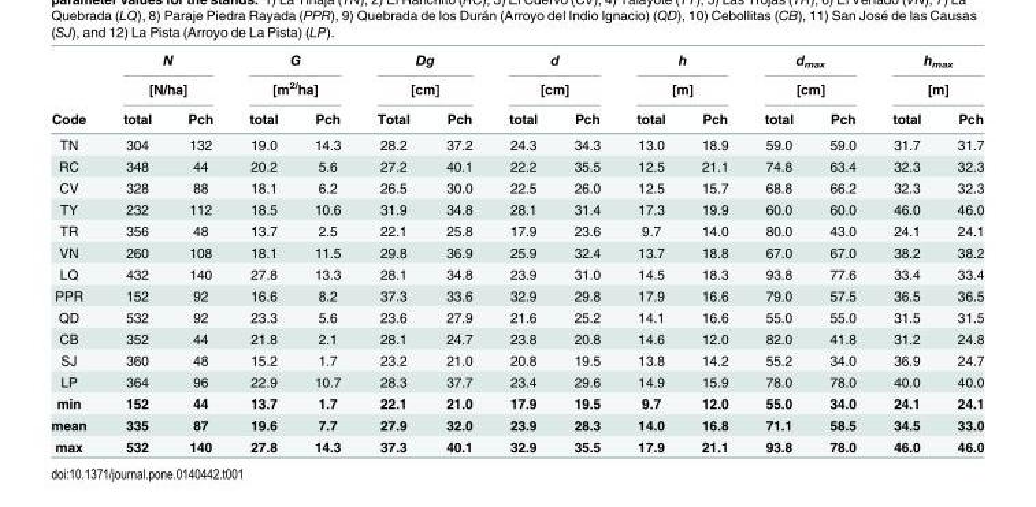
<table><thead><tr><td rowspan="3">Code</td><td rowspan="2" colspan="2">N [N/ha]</td><td rowspan="2" colspan="2">G [m<sup>2/</sup>ha]</td><td rowspan="2" colspan="2">Dg [cm]</td><td rowspan="2" colspan="2">d [cm]</td><td rowspan="2" colspan="2">h [m]</td><td rowspan="2" colspan="2">d<sub>max</sub> [cm]</td><td rowspan="2" colspan="2">h<sub>max</sub> [m]</td></tr><tr></tr><tr><td>total</td><td>Pch</td><td>total</td><td>Pch</td><td>Total</td><td>Pch</td><td>total</td><td>Pch</td><td>total</td><td>Pch</td><td>total</td><td>Pch</td><td>total</td><td>Pch</td></tr></thead><tbody><tr><td>TN</td><td>304</td><td>132</td><td>19.0</td><td>14.3</td><td>28.2</td><td>37.2</td><td>24.3</td><td>34.3</td><td>13.0</td><td>18.9</td><td>59.0</td><td>59.0</td><td>31.7</td><td>31.7</td></tr><tr><td>RC</td><td>348</td><td>44</td><td>20.2</td><td>5.6</td><td>27.2</td><td>40.1</td><td>22.2</td><td>35.5</td><td>12.5</td><td>21.1</td><td>74.8</td><td>63.4</td><td>32.3</td><td>32.3</td></tr><tr><td>CV</td><td>328</td><td>88</td><td>18.1</td><td>6.2</td><td>26.5</td><td>30.0</td><td>22.5</td><td>26.0</td><td>12.5</td><td>15.7</td><td>68.8</td><td>66.2</td><td>32.3</td><td>32.3</td></tr><tr><td>TY</td><td>232</td><td>112</td><td>18.5</td><td>10.6</td><td>31.9</td><td>34.8</td><td>28.1</td><td>31.4</td><td>17.3</td><td>19.9</td><td>60.0</td><td>60.0</td><td>46.0</td><td>46.0</td></tr><tr><td>TR</td><td>356</td><td>48</td><td>13.7</td><td>2.5</td><td>22.1</td><td>25.8</td><td>17.9</td><td>23.6</td><td>9.7</td><td>14.0</td><td>80.0</td><td>43.0</td><td>24.1</td><td>24.1</td></tr><tr><td>VN</td><td>260</td><td>108</td><td>18.1</td><td>11.5</td><td>29.8</td><td>36.9</td><td>25.9</td><td>32.4</td><td>13.7</td><td>18.8</td><td>67.0</td><td>67.0</td><td>38.2</td><td>38.2</td></tr><tr><td>LQ</td><td>432</td><td>140</td><td>27.8</td><td>13.3</td><td>28.1</td><td>34.8</td><td>23.9</td><td>31.0</td><td>14.5</td><td>18.3</td><td>93.8</td><td>77.6</td><td>33.4</td><td>33.4</td></tr><tr><td>PPR</td><td>152</td><td>92</td><td>16.6</td><td>8.2</td><td>37.3</td><td>33.6</td><td>32.9</td><td>29.8</td><td>17.9</td><td>16.6</td><td>79.0</td><td>57.5</td><td>36.5</td><td>36.5</td></tr><tr><td>QD</td><td>532</td><td>92</td><td>23.3</td><td>5.6</td><td>23.6</td><td>27.9</td><td>21.6</td><td>25.2</td><td>14.1</td><td>16.6</td><td>55.0</td><td>55.0</td><td>31.5</td><td>31.5</td></tr><tr><td>CB</td><td>352</td><td>44</td><td>21.8</td><td>2.1</td><td>28.1</td><td>24.7</td><td>23.8</td><td>20.8</td><td>14.6</td><td>12.0</td><td>82.0</td><td>41.8</td><td>31.2</td><td>24.8</td></tr><tr><td>SJ</td><td>360</td><td>48</td><td>15.2</td><td>1.7</td><td>23.2</td><td>21.0</td><td>20.8</td><td>19.5</td><td>13.8</td><td>14.2</td><td>55.2</td><td>34.0</td><td>36.9</td><td>24.7</td></tr><tr><td>LP</td><td>364</td><td>96</td><td>22.9</td><td>10.7</td><td>28.3</td><td>37.7</td><td>23.4</td><td>29.6</td><td>14.9</td><td>15.9</td><td>78.0</td><td>78.0</td><td>40.0</td><td>40.0</td></tr><tr><td>min</td><td>152</td><td>44</td><td>13.7</td><td>1.7</td><td>22.1</td><td>21.0</td><td>17.9</td><td>19.5</td><td>9.7</td><td>12.0</td><td>55.0</td><td>34.0</td><td>24.1</td><td>24.1</td></tr><tr><td>mean</td><td>335</td><td>87</td><td>19.6</td><td>7.7</td><td>27.9</td><td>32.0</td><td>23.9</td><td>28.3</td><td>14.0</td><td>16.8</td><td>71.1</td><td>58.5</td><td>34.5</td><td>33.0</td></tr><tr><td>max</td><td>532</td><td>140</td><td>27.8</td><td>14.3</td><td>37.3</td><td>40.1</td><td>32.9</td><td>35.5</td><td>17.9</td><td>21.1</td><td>93.8</td><td>78.0</td><td>46.0</td><td>46.0</td></tr></tbody></table>